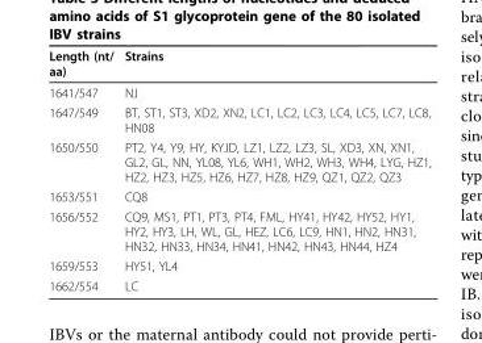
<table><thead><tr><td>Length (nt/ aa)</td><td>Strains</td></tr></thead><tbody><tr><td>1641/547</td><td>NJ</td></tr><tr><td>1647/549</td><td>BT, ST1, ST3, XD2, XN2, LC1, LC2, LC3, LC4, LC5, LC7, LC8, HN08</td></tr><tr><td>1650/550</td><td>PT2, Y4, Y9, HY, KYJD, LZ1, LZ2, LZ3, SL, XD3, XN, XN1, GL2, GL, NN, YL08, YL6, WH1, WH2, WH3, WH4, LYG, HZ1, HZ2, HZ3, HZ5, HZ6, HZ7, HZ8, HZ9, QZ1, QZ2, QZ3</td></tr><tr><td>1653/551</td><td>CQ8</td></tr><tr><td>1656/552</td><td>CQ9, MS1, PT1, PT3, PT4, FML, HY41, HY42, HY52, HY1, HY2, HY3, LH, WL, GL, HEZ, LC6, LC9, HN1, HN2, HN31, HN32, HN33, HN34, HN41, HN42, HN43, HN44, HZ4</td></tr><tr><td>1659/553</td><td>HY51, YL4</td></tr><tr><td>1662/554</td><td>LC</td></tr></tbody></table>